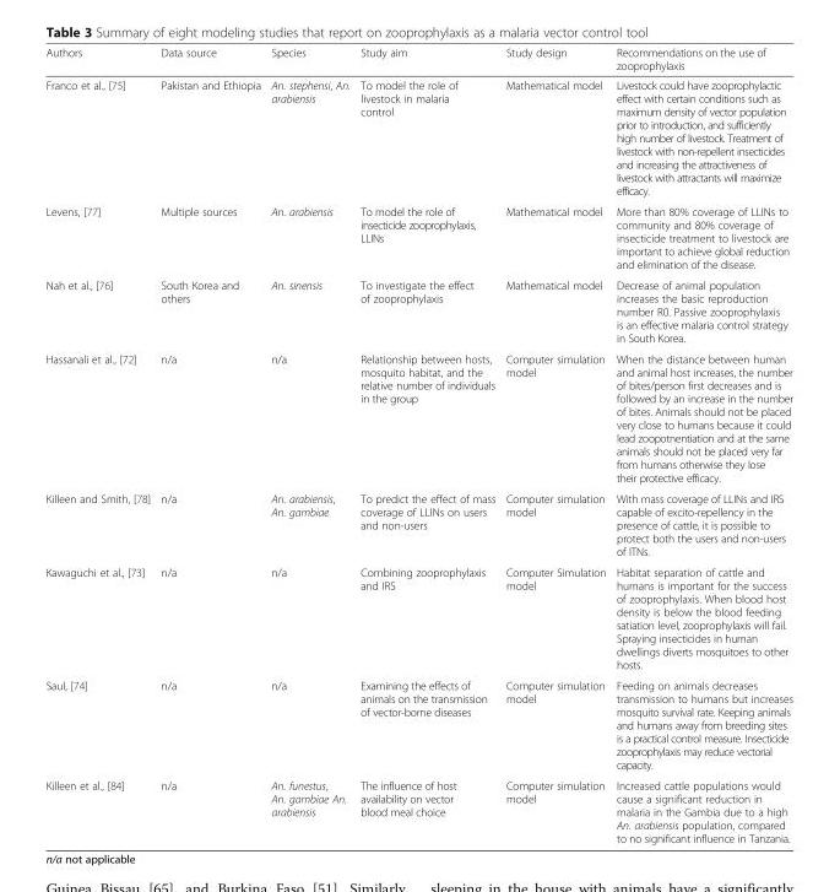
<table><thead><tr><td>Authors</td><td>Data source</td><td>Species</td><td>Study aim</td><td>Study design</td><td>Recommendations on the use of zooprophylaxis</td></tr></thead><tbody><tr><td>Franco et al., [75]</td><td>Pakistan and Ethiopia</td><td>An. stephensi, An. arabiensis</td><td>To model the role of livestock in malaria control</td><td>Mathematical model</td><td>Livestock could have zooprophylactic effect with certain conditions such as maximum density of vector population prior to introduction, and sufficiently high number of livestock. Treatment of livestock with non-repellent insecticides and increasing the attractiveness of livestock with attractants will maximize efficacy.</td></tr><tr><td>Levens, [77]</td><td>Multiple sources</td><td>An. arabiensis</td><td>To model the role of insecticide zooprophylaxis, LLINs</td><td>Mathematical model</td><td>More than 80% coverage of LLINs to community and 80% coverage of insecticide treatment to livestock are important to achieve global reduction and elimination of the disease.</td></tr><tr><td>Nah et al., [76]</td><td>South Korea and others</td><td>An. sinensis</td><td>To investigate the effect of zooprophylaxis</td><td>Mathematical model</td><td>Decrease of animal population increases the basic reproduction number R0. Passive zooprophylaxis is an effective malaria control strategy in South Korea.</td></tr><tr><td>Hassanali et al., [72]</td><td>n/a</td><td>n/a</td><td>Relationship between hosts, mosquito habitat, and the relative number of individuals in the group</td><td>Computer simulation model</td><td>When the distance between human and animal host increases, the number of bites/person first decreases and is followed by an increase in the number of bites. Animals should not be placed very close to humans because it could lead zoopotnentiation and at the same animals should not be placed very far from humans otherwise they lose their protective efficacy.</td></tr><tr><td>Killeen and Smith, [78]</td><td>n/a</td><td>An. arabiensis, An. gambiae</td><td>To predict the effect of mass coverage of LLINs on users and non-users</td><td>Computer simulation model</td><td>With mass coverage of LLINs and IRS capable of excito-repellency in the presence of cattle, it is possible to protect both the users and non-users of ITNs.</td></tr><tr><td>Kawaguchi et al., [73]</td><td>n/a</td><td>n/a</td><td>Combining zooprophylaxis and IRS</td><td>Computer Simulation model</td><td>Habitat separation of cattle and humans is important for the success of zooprophylaxis. When blood host density is below the blood feeding satiation level, zooprophylaxis will fail. Spraying insecticides in human dwellings diverts mosquitoes to other hosts.</td></tr><tr><td>Saul, [74]</td><td>n/a</td><td>n/a</td><td>Examining the effects of animals on the transmission of vector-borne diseases</td><td>Computer simulation model</td><td>Feeding on animals decreases transmission to humans but increases mosquito survival rate. Keeping animals and humans away from breeding sites is a practical control measure. Insecticide zooprophylaxis may reduce vectorial capacity.</td></tr><tr><td>Killeen et al., [84]</td><td>n/a</td><td>An. funestus, An. gambiae An. arabiensis</td><td>The influence of host availability on vector blood meal choice</td><td>Computer simulation model</td><td>Increased cattle populations would cause a significant reduction in malaria in the Gambia due to a high An. arabiensis population, compared to no significant influence in Tanzania.</td></tr></tbody></table>